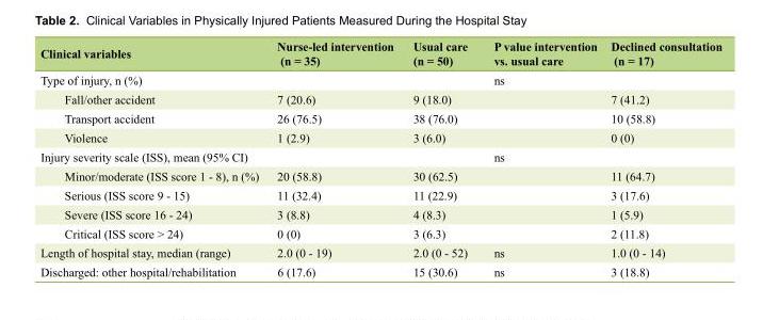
<table><thead><tr><td>Clinical variables</td><td>Nurse-led intervention (n = 35)</td><td>Usual care (n = 50)</td><td>P value intervention vs. usual care</td><td>Declined consultation (n = 17)</td></tr></thead><tbody><tr><td>Type of injury, n (%)</td><td></td><td></td><td>ns</td><td></td></tr><tr><td>Fall/other accident</td><td>7 (20.6)</td><td>9 (18.0)</td><td></td><td>7 (41.2)</td></tr><tr><td>Transport accident</td><td>26 (76.5)</td><td>38 (76.0)</td><td></td><td>10 (58.8)</td></tr><tr><td>Violence</td><td>1 (2.9)</td><td>3 (6.0)</td><td></td><td>0 (0)</td></tr><tr><td>Injury severity scale (ISS), mean (95% CI)</td><td></td><td></td><td>ns</td><td></td></tr><tr><td>Minor/moderate (ISS score 1 - 8), n (%)</td><td>20 (58.8)</td><td>30 (62.5)</td><td></td><td>11 (64.7)</td></tr><tr><td>Serious (ISS score 9 - 15)</td><td>11 (32.4)</td><td>11 (22.9)</td><td></td><td>3 (17.6)</td></tr><tr><td>Severe (ISS score 16 - 24)</td><td>3 (8.8)</td><td>4 (8.3)</td><td></td><td>1 (5.9)</td></tr><tr><td>Critical (ISS score &gt; 24)</td><td>0 (0)</td><td>3 (6.3)</td><td></td><td>2 (11.8)</td></tr><tr><td>Length of hospital stay, median (range)</td><td>2.0 (0 - 19)</td><td>2.0 (0 - 52)</td><td>ns</td><td>1.0 (0 - 14)</td></tr><tr><td>Discharged: other hospital/rehabilitation</td><td>6 (17.6)</td><td>15 (30.6)</td><td>ns</td><td>3 (18.8)</td></tr></tbody></table>